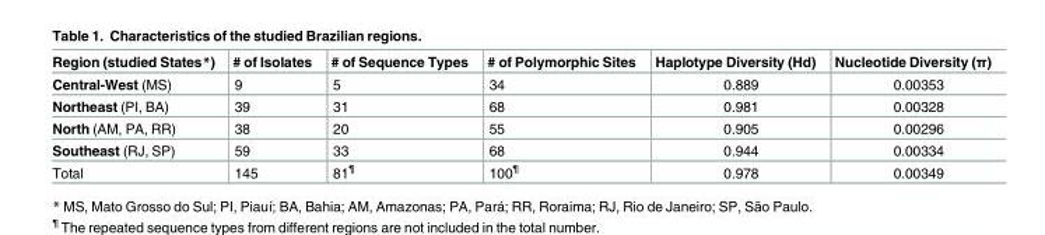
<table><thead><tr><td>Region (studied States*)</td><td># of Isolates</td><td># of Sequence Types</td><td># of Polymorphic Sites</td><td>Haplotype Diversity (Hd)</td><td>Nucleotide Diversity (π)</td></tr></thead><tbody><tr><td>Central-West (MS)</td><td>9</td><td>5</td><td>34</td><td>0.889</td><td>0.00353</td></tr><tr><td>Northeast (PI, BA)</td><td>39</td><td>31</td><td>68</td><td>0.981</td><td>0.00328</td></tr><tr><td>North (AM, PA, RR)</td><td>38</td><td>20</td><td>55</td><td>0.905</td><td>0.00296</td></tr><tr><td>Southeast (RJ, SP)</td><td>59</td><td>33</td><td>68</td><td>0.944</td><td>0.00334</td></tr><tr><td>Total</td><td>145</td><td>81<sup>¶</sup></td><td>100<sup>¶</sup></td><td>0.978</td><td>0.00349</td></tr></tbody></table>